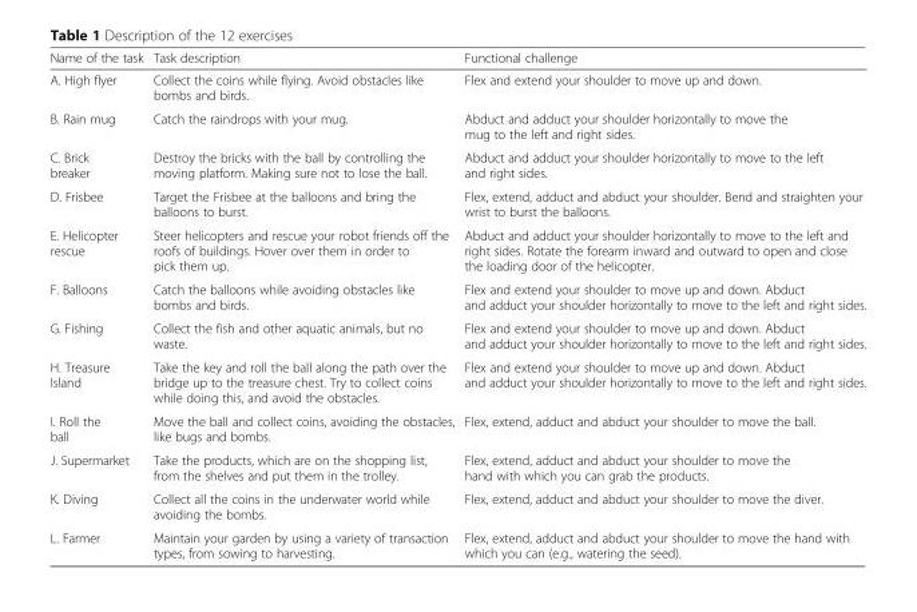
<table><thead><tr><td>Name of the task</td><td>Task description</td><td>Functional challenge</td></tr></thead><tbody><tr><td>A. High flyer</td><td>Collect the coins while flying. Avoid obstacles like bombs and birds.</td><td>Flex and extend your shoulder to move up and down.</td></tr><tr><td>B. Rain mug</td><td>Catch the raindrops with your mug.</td><td>Abduct and adduct your shoulder horizontally to move the mug to the left and right sides.</td></tr><tr><td>C. Brick breaker</td><td>Destroy the bricks with the ball by controlling the moving platform. Making sure not to lose the ball.</td><td>Abduct and adduct your shoulder horizontally to move to the left and right sides.</td></tr><tr><td>D. Frisbee</td><td>Target the Frisbee at the balloons and bring the balloons to burst.</td><td>Flex, extend, adduct and abduct your shoulder. Bend and straighten your wrist to burst the balloons.</td></tr><tr><td>E. Helicopter rescue</td><td>Steer helicopters and rescue your robot friends off the roofs of buildings. Hover over them in order to pick them up.</td><td>Abduct and adduct your shoulder horizontally to move to the left and right sides. Rotate the forearm inward and outward to open and close the loading door of the helicopter.</td></tr><tr><td>F. Balloons</td><td>Catch the balloons while avoiding obstacles like bombs and birds.</td><td>Flex and extend your shoulder to move up and down. Abduct and adduct your shoulder horizontally to move to the left and right sides.</td></tr><tr><td>G. Fishing</td><td>Collect the fish and other aquatic animals, but no waste.</td><td>Flex and extend your shoulder to move up and down. Abduct and adduct your shoulder horizontally to move to the left and right sides.</td></tr><tr><td>H. Treasure Island</td><td>Take the key and roll the ball along the path over the bridge up to the treasure chest. Try to collect coins while doing this, and avoid the obstacles.</td><td>Flex and extend your shoulder to move up and down. Abduct and adduct your shoulder horizontally to move to the left and right sides.</td></tr><tr><td>I. Roll the ball</td><td>Move the ball and collect coins, avoiding the obstacles, like bugs and bombs.</td><td>Flex, extend, adduct and abduct your shoulder to move the ball.</td></tr><tr><td>J. Supermarket</td><td>Take the products, which are on the shopping list, from the shelves and put them in the trolley.</td><td>Flex, extend, adduct and abduct your shoulder to move the hand with which you can grab the products.</td></tr><tr><td>K. Diving</td><td>Collect all the coins in the underwater world while avoiding the bombs.</td><td>Flex, extend, adduct and abduct your shoulder to move the diver.</td></tr><tr><td>L. Farmer</td><td>Maintain your garden by using a variety of transaction types, from sowing to harvesting.</td><td>Flex, extend, adduct and abduct your shoulder to move the hand with which you can (e.g., watering the seed).</td></tr></tbody></table>